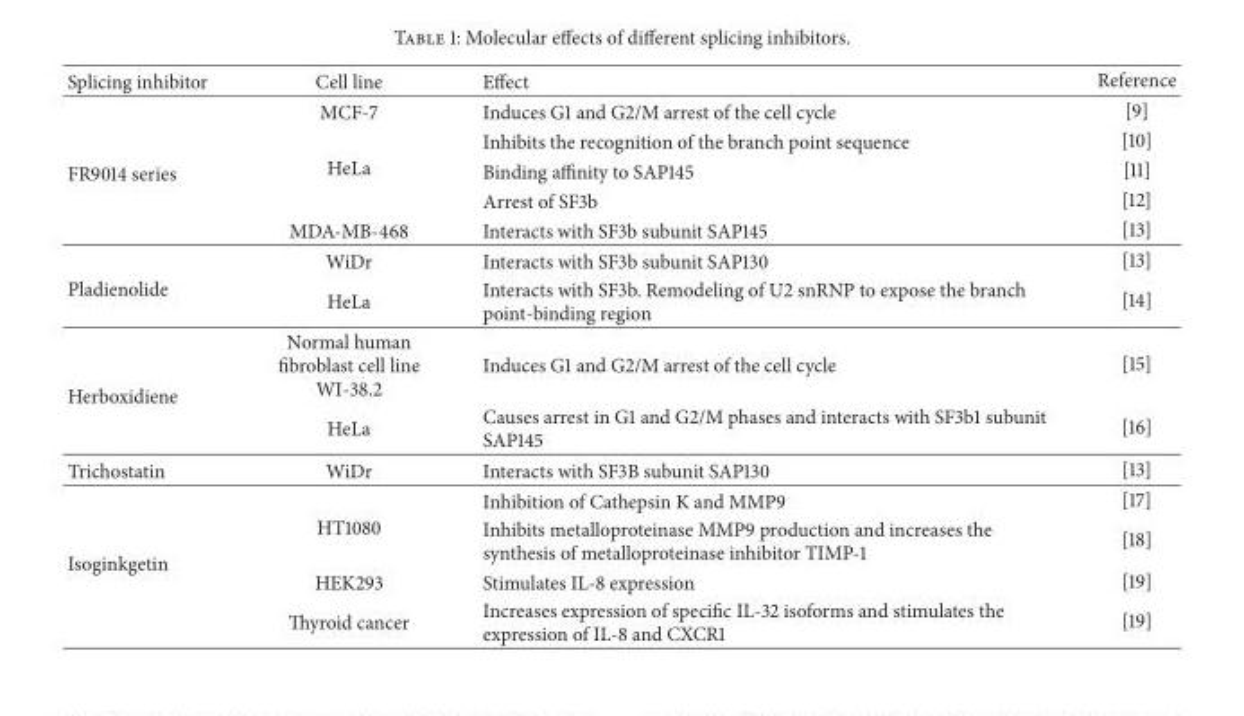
<table><thead><tr><td>Splicing inhibitor</td><td>Cell line</td><td>Effect</td><td>Reference</td></tr></thead><tbody><tr><td rowspan="5">FR9014 series</td><td>MCF-7</td><td>Induces G1 and G2/M arrest of the cell cycle</td><td>[9]</td></tr><tr><td rowspan="3">HeLa</td><td>Inhibits the recognition of the branch point sequence</td><td>[10]</td></tr><tr><td>Binding affinity to SAP145</td><td>[11]</td></tr><tr><td>Arrest of SF3b</td><td>[12]</td></tr><tr><td>MDA-MB-468</td><td>Interacts with SF3b subunit SAP145</td><td>[13]</td></tr><tr><td rowspan="2">Pladienolide</td><td>WiDr</td><td>Interacts with SF3b subunit SAP130</td><td>[13]</td></tr><tr><td>HeLa</td><td>Interacts with SF3b. Remodeling of U2 snRNP to expose the branch point-binding region</td><td>[14]</td></tr><tr><td rowspan="2">Herboxidiene</td><td>Normal human fibroblast cell line WI-38.2</td><td>Induces G1 and G2/M arrest of the cell cycle</td><td>[15]</td></tr><tr><td>HeLa</td><td>Causes arrest in G1 and G2/M phases and interacts with SF3b1 subunit SAP145</td><td>[16]</td></tr><tr><td>Trichostatin</td><td>WiDr</td><td>Interacts with SF3B subunit SAP130</td><td>[13]</td></tr><tr><td rowspan="4">Isoginkgetin</td><td rowspan="2">HT1080</td><td>Inhibition of Cathepsin K and MMP9</td><td>[17]</td></tr><tr><td>Inhibits metalloproteinase MMP9 production and increases the synthesis of metalloproteinase inhibitor TIMP-1</td><td>[18]</td></tr><tr><td>HEK293</td><td>Stimulates IL-8 expression</td><td>[19]</td></tr><tr><td>Thyroid cancer</td><td>Increases expression of specific IL-32 isoforms and stimulates the expression of IL-8 and CXCR1</td><td>[19]</td></tr></tbody></table>